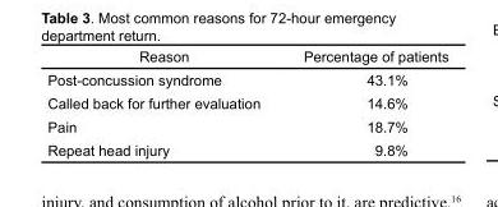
<table><thead><tr><td>Reason</td><td>Percentage of patients</td></tr></thead><tbody><tr><td>Post-concussion syndrome</td><td>43.1%</td></tr><tr><td>Called back for further evaluation</td><td>14.6%</td></tr><tr><td>Pain</td><td>18.7%</td></tr><tr><td>Repeat head injury</td><td>9.8%</td></tr></tbody></table>